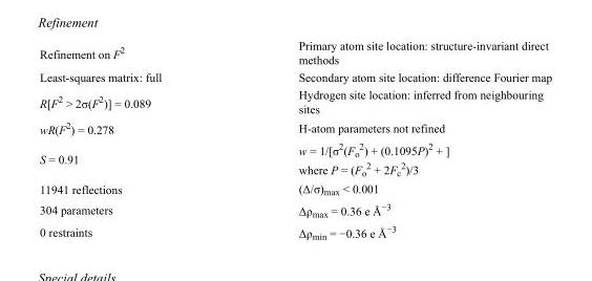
<table><tbody><tr><td>Refinement on F<sup>2</sup></td><td>Primary atom site location: structure-invariant direct methods</td></tr><tr><td>Least-squares matrix: full</td><td>Secondary atom site location: difference Fourier map</td></tr><tr><td>R[F<sup>2</sup> &gt; 2σ(F<sup>2</sup>)] = 0.089</td><td>Hydrogen site location: inferred from neighbouring sites</td></tr><tr><td>wR(F<sup>2</sup>) = 0.278</td><td>H-atom parameters not refined</td></tr><tr><td>S = 0.91</td><td>w = 1/[σ<sup>2</sup>(F<sub>o</sub> <sup>2</sup>) + (0.1095P)<sup>2</sup> + ] where P = (F<sub>o</sub> <sup>2</sup> + 2F<sub>c</sub> <sup>2</sup>)/3</td></tr><tr><td>11941 reflections</td><td>(Δ/σ)<sub>max</sub> &lt; 0.001</td></tr><tr><td>304 parameters</td><td>Δρ<sub>max</sub> = 0.36 e Å<sup>−3</sup></td></tr><tr><td>0 restraints</td><td>Δρ<sub>min</sub> = −0.36 e Å<sup>−3</sup></td></tr></tbody></table>